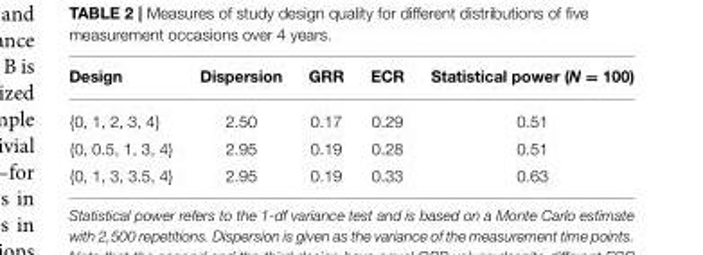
<table><thead><tr><td>Design</td><td>Dispersion</td><td>GRR</td><td>ECR</td><td>Statistical power (N = 100)</td></tr></thead><tbody><tr><td>{0, 1, 2, 3, 4}</td><td>2.50</td><td>0.17</td><td>0.29</td><td>0.51</td></tr><tr><td>{0, 0.5, 1, 3, 4}</td><td>2.95</td><td>0.19</td><td>0.28</td><td>0.51</td></tr><tr><td>{0, 1, 3, 3.5, 4}</td><td>2.95</td><td>0.19</td><td>0.33</td><td>0.63</td></tr></tbody></table>